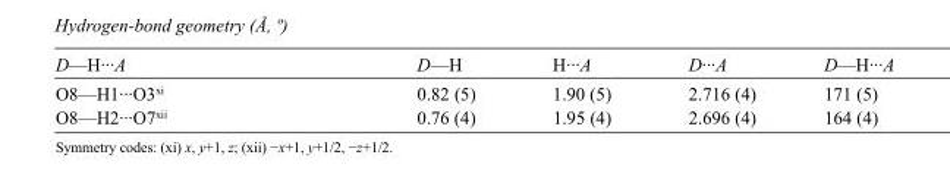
<table><tbody><tr><td>D—H···A</td><td>D—H</td><td>H···A</td><td>D···A</td><td>D—H···A</td></tr><tr><td>O8—H1···O3<sup>xi</sup></td><td>0.82 (5)</td><td>1.90 (5)</td><td>2.716 (4)</td><td>171 (5)</td></tr><tr><td>O8—H2···O7<sup>xii</sup></td><td>0.76 (4)</td><td>1.95 (4)</td><td>2.696 (4)</td><td>164 (4)</td></tr></tbody></table>